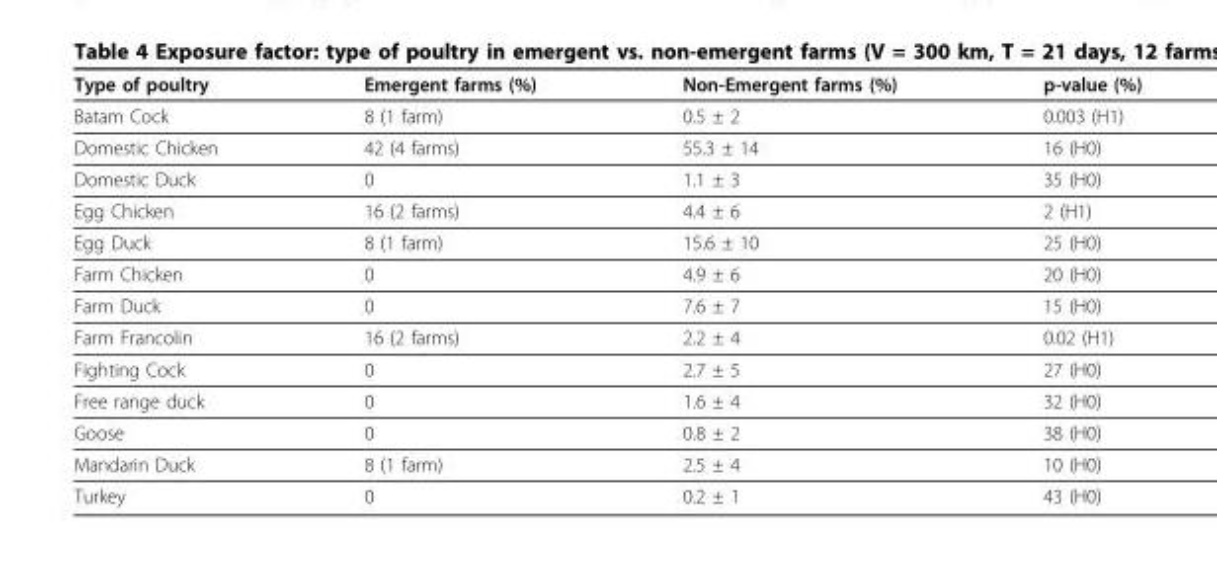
<table><thead><tr><td>Type of poultry</td><td>Emergent farms (%)</td><td>Non-Emergent farms (%)</td><td>p-value (%)</td></tr></thead><tbody><tr><td>Batam Cock</td><td>8 (1 farm)</td><td>0.5 ± 2</td><td>0.003 (H1)</td></tr><tr><td>Domestic Chicken</td><td>42 (4 farms)</td><td>55.3 ± 14</td><td>16 (H0)</td></tr><tr><td>Domestic Duck</td><td>0</td><td>1.1 ± 3</td><td>35 (H0)</td></tr><tr><td>Egg Chicken</td><td>16 (2 farms)</td><td>4.4 ± 6</td><td>2 (H1)</td></tr><tr><td>Egg Duck</td><td>8 (1 farm)</td><td>15.6 ± 10</td><td>25 (H0)</td></tr><tr><td>Farm Chicken</td><td>0</td><td>4.9 ± 6</td><td>20 (H0)</td></tr><tr><td>Farm Duck</td><td>0</td><td>7.6 ± 7</td><td>15 (H0)</td></tr><tr><td>Farm Francolin</td><td>16 (2 farms)</td><td>2.2 ± 4</td><td>0.02 (H1)</td></tr><tr><td>Fighting Cock</td><td>0</td><td>2.7 ± 5</td><td>27 (H0)</td></tr><tr><td>Free range duck</td><td>0</td><td>1.6 ± 4</td><td>32 (H0)</td></tr><tr><td>Goose</td><td>0</td><td>0.8 ± 2</td><td>38 (H0)</td></tr><tr><td>Mandarin Duck</td><td>8 (1 farm)</td><td>2.5 ± 4</td><td>10 (H0)</td></tr><tr><td>Turkey</td><td>0</td><td>0.2 ± 1</td><td>43 (H0)</td></tr></tbody></table>